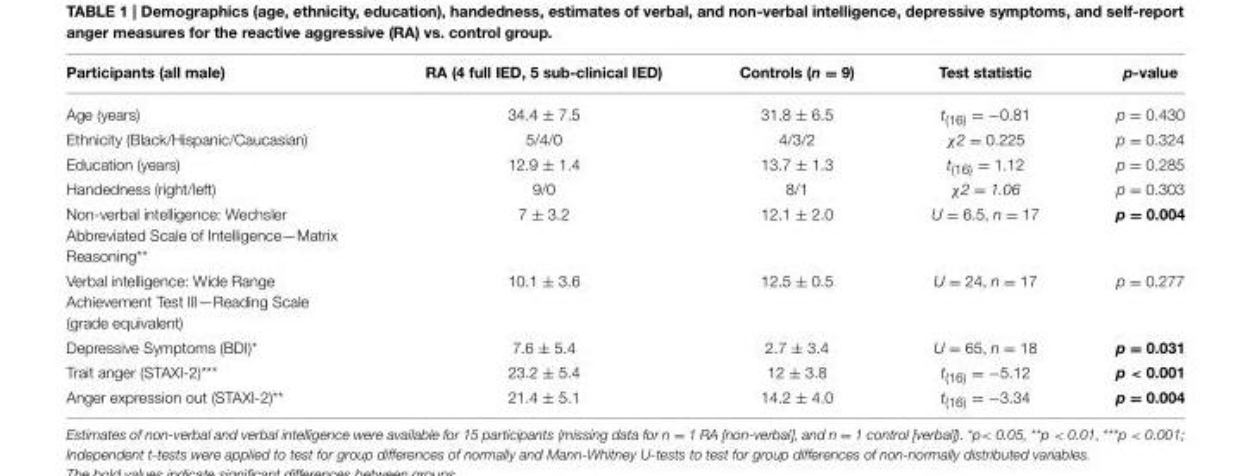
<table><thead><tr><td>Participants (all male)</td><td>RA (4 full IED, 5 sub-clinical IED)</td><td>Controls (n = 9)</td><td>Test statistic</td><td>p-value</td></tr></thead><tbody><tr><td>Age (years)</td><td>34.4 ± 7.5</td><td>31.8 ± 6.5</td><td><sup>t</sup>(16) = −0.81</td><td>p = 0.430</td></tr><tr><td>Ethnicity (Black/Hispanic/Caucasian)</td><td>5/4/0</td><td>4/3/2</td><td>χ<sup>2</sup> = 0.225</td><td>p = 0.324</td></tr><tr><td>Education (years)</td><td>12.9 ± 1.4</td><td>13.7 ± 1.3</td><td><sup>t</sup>(16) = 1.12</td><td>p = 0.285</td></tr><tr><td>Handedness (right/left)</td><td>9/0</td><td>8/1</td><td>χ<sup>2</sup> = 1.06</td><td>p = 0.303</td></tr><tr><td>Non-verbal intelligence: Wechsler Abbreviated Scale of Intelligence—Matrix Reasoning**</td><td>7 ± 3.2</td><td>12.1 ± 2.0</td><td>U = 6.5, n = 17</td><td>p = 0.004</td></tr><tr><td>Verbal intelligence: Wide Range Achievement Test III—Reading Scale (grade equivalent)</td><td>10.1 ± 3.6</td><td>12.5 ± 0.5</td><td>U = 24, n = 17</td><td>p = 0.277</td></tr><tr><td>Depressive Symptoms (BDI)*</td><td>7.6 ± 5.4</td><td>2.7 ± 3.4</td><td>U = 65, n = 18</td><td>p = 0.031</td></tr><tr><td>Trait anger (STAXI-2)***</td><td>23.2 ± 5.4</td><td>12 ± 3.8</td><td><sup>t</sup>(16) = −5.12</td><td>p &lt; 0.001</td></tr><tr><td>Anger expression out (STAXI-2)**</td><td>21.4 ± 5.1</td><td>14.2 ± 4.0</td><td><sup>t</sup>(16) = −3.34</td><td>p = 0.004</td></tr></tbody></table>